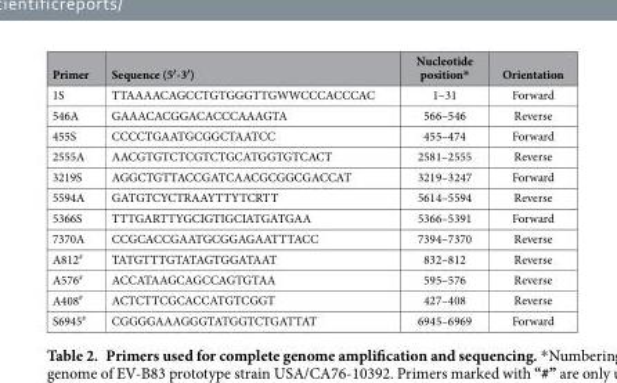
<table><thead><tr><td>Primer</td><td>Sequence (5′-3′)</td><td>Nucleotide position*</td><td>Orientation</td></tr></thead><tbody><tr><td>1S</td><td>TTAAAACAGCCTGTGGGTTGWWCCCACCCAC</td><td>1–31</td><td>Forward</td></tr><tr><td>546A</td><td>GAAACACGGACACCCAAAGTA</td><td>566–546</td><td>Reverse</td></tr><tr><td>455S</td><td>CCCCTGAATGCGGCTAATCC</td><td>455–474</td><td>Forward</td></tr><tr><td>2555A</td><td>AACGTGTCTCGTCTGCATGGTGTCACT</td><td>2581–2555</td><td>Reverse</td></tr><tr><td>3219S</td><td>AGGCTGTTACCGATCAACGCGGCGACCAT</td><td>3219–3247</td><td>Forward</td></tr><tr><td>5594A</td><td>GATGTCYCTRAAYTTYTCRTT</td><td>5614–5594</td><td>Reverse</td></tr><tr><td>5366S</td><td>TTTGARTTYGCIGTIGCIATGATGAA</td><td>5366–5391</td><td>Forward</td></tr><tr><td>7370A</td><td>CCGCACCGAATGCGGAGAATTTACC</td><td>7394–7370</td><td>Reverse</td></tr><tr><td>A812<sup>#</sup></td><td>TATGTTTGTATAGTGGATAAT</td><td>832–812</td><td>Reverse</td></tr><tr><td>A576<sup>#</sup></td><td>ACCATAAGCAGCCAGTGTAA</td><td>595–576</td><td>Reverse</td></tr><tr><td>A408<sup>#</sup></td><td>ACTCTTCGCACCATGTCGGT</td><td>427–408</td><td>Reverse</td></tr><tr><td>S6945<sup>#</sup></td><td>CGGGGAAAGGGTATGGTCTGATTAT</td><td>6945–6969</td><td>Forward</td></tr></tbody></table>